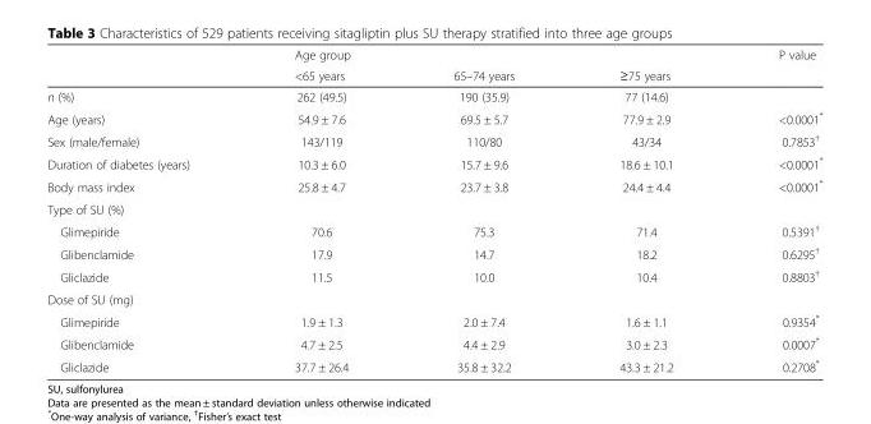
<table><thead><tr><td rowspan="2"></td><td colspan="3">Age group</td><td rowspan="2">P value</td></tr><tr><td>&lt;65 years</td><td>65–74 years</td><td>≥75 years</td></tr></thead><tbody><tr><td>n (%)</td><td>262 (49.5)</td><td>190 (35.9)</td><td>77 (14.6)</td><td></td></tr><tr><td>Age (years)</td><td>54.9 ± 7.6</td><td>69.5 ± 5.7</td><td>77.9 ± 2.9</td><td>&lt;0.0001*</td></tr><tr><td>Sex (male/female)</td><td>143/119</td><td>110/80</td><td>43/34</td><td>0.7853<sup>†</sup></td></tr><tr><td>Duration of diabetes (years)</td><td>10.3 ± 6.0</td><td>15.7 ± 9.6</td><td>18.6 ± 10.1</td><td>&lt;0.0001*</td></tr><tr><td>Body mass index</td><td>25.8 ± 4.7</td><td>23.7 ± 3.8</td><td>24.4 ± 4.4</td><td>&lt;0.0001*</td></tr><tr><td colspan="5">Type of SU (%)</td></tr><tr><td>Glimepiride</td><td>70.6</td><td>75.3</td><td>71.4</td><td>0.5391<sup>†</sup></td></tr><tr><td>Glibenclamide</td><td>17.9</td><td>14.7</td><td>18.2</td><td>0.6295<sup>†</sup></td></tr><tr><td>Gliclazide</td><td>11.5</td><td>10.0</td><td>10.4</td><td>0.8803<sup>†</sup></td></tr><tr><td colspan="5">Dose of SU (mg)</td></tr><tr><td>Glimepiride</td><td>1.9 ± 1.3</td><td>2.0 ± 7.4</td><td>1.6 ± 1.1</td><td>0.9354*</td></tr><tr><td>Glibenclamide</td><td>4.7 ± 2.5</td><td>4.4 ± 2.9</td><td>3.0 ± 2.3</td><td>0.0007*</td></tr><tr><td>Gliclazide</td><td>37.7 ± 26.4</td><td>35.8 ± 32.2</td><td>43.3 ± 21.2</td><td>0.2708*</td></tr></tbody></table>